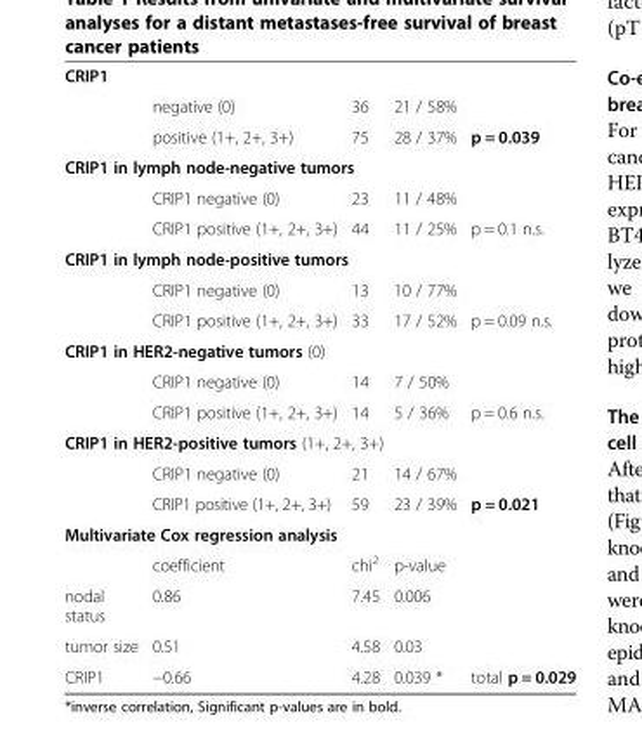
<table><tbody><tr><td colspan="5">CRIP1</td></tr><tr><td></td><td>negative (0)</td><td>36</td><td>21 / 58%</td><td></td></tr><tr><td></td><td>positive (1+, 2+, 3+)</td><td>75</td><td>28 / 37%</td><td>p = 0.039</td></tr><tr><td colspan="5">CRIP1 in lymph node-negative tumors</td></tr><tr><td></td><td>CRIP1 negative (0)</td><td>23</td><td>11 / 48%</td><td></td></tr><tr><td></td><td>CRIP1 positive (1+, 2+, 3+)</td><td>44</td><td>11 / 25%</td><td>p = 0.1 n.s.</td></tr><tr><td colspan="5">CRIP1 in lymph node-positive tumors</td></tr><tr><td></td><td>CRIP1 negative (0)</td><td>13</td><td>10 / 77%</td><td></td></tr><tr><td></td><td>CRIP1 positive (1+, 2+, 3+)</td><td>33</td><td>17 / 52%</td><td>p = 0.09 n.s.</td></tr><tr><td colspan="5">CRIP1 in HER2-negative tumors (0)</td></tr><tr><td></td><td>CRIP1 negative (0)</td><td>14</td><td>7 / 50%</td><td></td></tr><tr><td></td><td>CRIP1 positive (1+, 2+, 3+)</td><td>14</td><td>5 / 36%</td><td>p = 0.6 n.s.</td></tr><tr><td colspan="5">CRIP1 in HER2-positive tumors (1+, 2+, 3+)</td></tr><tr><td></td><td>CRIP1 negative (0)</td><td>21</td><td>14 / 67%</td><td></td></tr><tr><td></td><td>CRIP1 positive (1+, 2+, 3+)</td><td>59</td><td>23 / 39%</td><td>p = 0.021</td></tr><tr><td colspan="5">Multivariate Cox regression analysis</td></tr><tr><td></td><td>coefficient</td><td>chi<sup>2</sup></td><td>p-value</td><td></td></tr><tr><td>nodal status</td><td>0.86</td><td>7.45</td><td>0.006</td><td></td></tr><tr><td>tumor size</td><td>0.51</td><td>4.58</td><td>0.03</td><td></td></tr><tr><td>CRIP1</td><td>−0.66</td><td>4.28</td><td>0.039 *</td><td>total p = 0.029</td></tr></tbody></table>